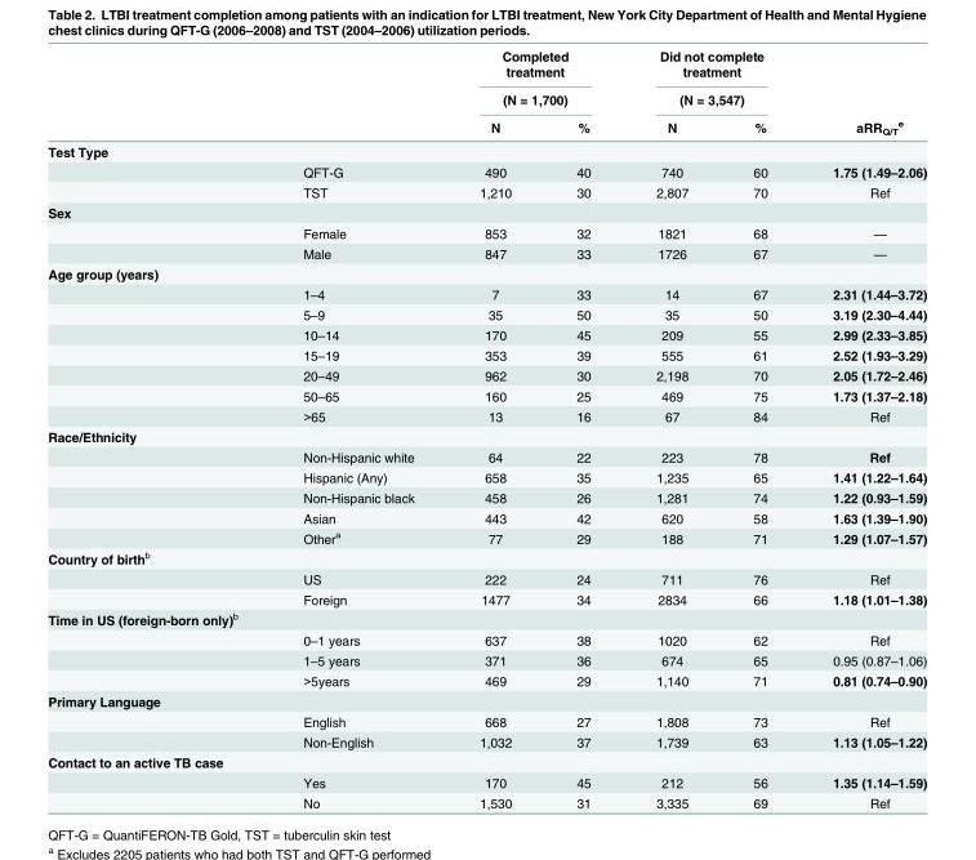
<table><thead><tr><td rowspan="3"></td><td rowspan="3"></td><td rowspan="2" colspan="2">Completed treatment (N = 1,700)</td><td rowspan="2" colspan="2">Did not complete treatment (N = 3,547)</td><td rowspan="3">aRR<sub>Q/T</sub> <sup>e</sup></td></tr><tr></tr><tr><td>N</td><td>%</td><td>N</td><td>%</td></tr></thead><tbody><tr><td colspan="7">Test Type</td></tr><tr><td></td><td>QFT-G</td><td>490</td><td>40</td><td>740</td><td>60</td><td>1.75 (1.49–2.06)</td></tr><tr><td></td><td>TST</td><td>1,210</td><td>30</td><td>2,807</td><td>70</td><td>Ref</td></tr><tr><td colspan="7">Sex</td></tr><tr><td></td><td>Female</td><td>853</td><td>32</td><td>1821</td><td>68</td><td>—</td></tr><tr><td></td><td>Male</td><td>847</td><td>33</td><td>1726</td><td>67</td><td>—</td></tr><tr><td colspan="7">Age group (years)</td></tr><tr><td></td><td>1–4</td><td>7</td><td>33</td><td>14</td><td>67</td><td>2.31 (1.44–3.72)</td></tr><tr><td></td><td>5–9</td><td>35</td><td>50</td><td>35</td><td>50</td><td>3.19 (2.30–4.44)</td></tr><tr><td></td><td>10–14</td><td>170</td><td>45</td><td>209</td><td>55</td><td>2.99 (2.33–3.85)</td></tr><tr><td></td><td>15–19</td><td>353</td><td>39</td><td>555</td><td>61</td><td>2.52 (1.93–3.29)</td></tr><tr><td></td><td>20–49</td><td>962</td><td>30</td><td>2,198</td><td>70</td><td>2.05 (1.72–2.46)</td></tr><tr><td></td><td>50–65</td><td>160</td><td>25</td><td>469</td><td>75</td><td>1.73 (1.37–2.18)</td></tr><tr><td></td><td>&gt;65</td><td>13</td><td>16</td><td>67</td><td>84</td><td>Ref</td></tr><tr><td colspan="7">Race/Ethnicity</td></tr><tr><td></td><td>Non-Hispanic white</td><td>64</td><td>22</td><td>223</td><td>78</td><td>Ref</td></tr><tr><td></td><td>Hispanic (Any)</td><td>658</td><td>35</td><td>1,235</td><td>65</td><td>1.41 (1.22–1.64)</td></tr><tr><td></td><td>Non-Hispanic black</td><td>458</td><td>26</td><td>1,281</td><td>74</td><td>1.22 (0.93–1.59)</td></tr><tr><td></td><td>Asian</td><td>443</td><td>42</td><td>620</td><td>58</td><td>1.63 (1.39–1.90)</td></tr><tr><td></td><td>Other<sup>a</sup></td><td>77</td><td>29</td><td>188</td><td>71</td><td>1.29 (1.07–1.57)</td></tr><tr><td colspan="7">Country of birth<sup>b</sup></td></tr><tr><td></td><td>US</td><td>222</td><td>24</td><td>711</td><td>76</td><td>Ref</td></tr><tr><td></td><td>Foreign</td><td>1477</td><td>34</td><td>2834</td><td>66</td><td>1.18 (1.01–1.38)</td></tr><tr><td colspan="7">Time in US (foreign-born only)<sup>b</sup></td></tr><tr><td></td><td>0–1 years</td><td>637</td><td>38</td><td>1020</td><td>62</td><td>Ref</td></tr><tr><td></td><td>1–5 years</td><td>371</td><td>36</td><td>674</td><td>65</td><td>0.95 (0.87–1.06)</td></tr><tr><td></td><td>&gt;5years</td><td>469</td><td>29</td><td>1,140</td><td>71</td><td>0.81 (0.74–0.90)</td></tr><tr><td colspan="7">Primary Language</td></tr><tr><td></td><td>English</td><td>668</td><td>27</td><td>1,808</td><td>73</td><td>Ref</td></tr><tr><td></td><td>Non-English</td><td>1,032</td><td>37</td><td>1,739</td><td>63</td><td>1.13 (1.05–1.22)</td></tr><tr><td colspan="7">Contact to an active TB case</td></tr><tr><td></td><td>Yes</td><td>170</td><td>45</td><td>212</td><td>56</td><td>1.35 (1.14–1.59)</td></tr><tr><td></td><td>No</td><td>1,530</td><td>31</td><td>3,335</td><td>69</td><td>Ref</td></tr></tbody></table>